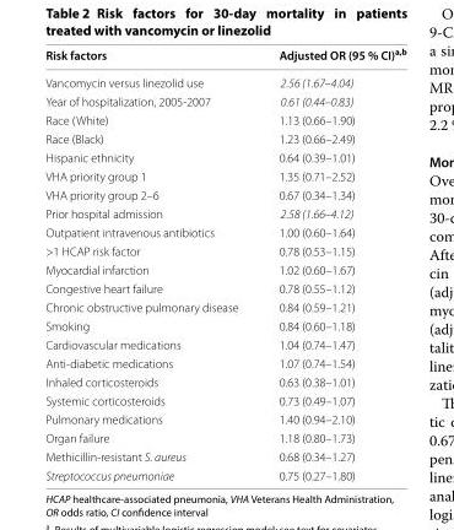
<table><thead><tr><td>Risk factors</td><td>Adjusted OR (95 % CI)<sup>a,b</sup></td></tr></thead><tbody><tr><td>Vancomycin versus linezolid use</td><td>2.56 (1.67–4.04)</td></tr><tr><td>Year of hospitalization, 2005-2007</td><td>0.61 (0.44–0.83)</td></tr><tr><td>Race (White)</td><td>1.13 (0.66–1.90)</td></tr><tr><td>Race (Black)</td><td>1.23 (0.66–2.49)</td></tr><tr><td>Hispanic ethnicity</td><td>0.64 (0.39–1.01)</td></tr><tr><td>VHA priority group 1</td><td>1.35 (0.71–2.52)</td></tr><tr><td>VHA priority group 2–6</td><td>0.67 (0.34–1.34)</td></tr><tr><td>Prior hospital admission</td><td>2.58 (1.66–4.12)</td></tr><tr><td>Outpatient intravenous antibiotics</td><td>1.00 (0.60–1.64)</td></tr><tr><td>&gt;1 HCAP risk factor</td><td>0.78 (0.53–1.15)</td></tr><tr><td>Myocardial infarction</td><td>1.02 (0.60–1.67)</td></tr><tr><td>Congestive heart failure</td><td>0.78 (0.55–1.12)</td></tr><tr><td>Chronic obstructive pulmonary disease</td><td>0.84 (0.59–1.21)</td></tr><tr><td>Smoking</td><td>0.84 (0.60–1.18)</td></tr><tr><td>Cardiovascular medications</td><td>1.04 (0.74–1.47)</td></tr><tr><td>Anti-diabetic medications</td><td>1.07 (0.74–1.54)</td></tr><tr><td>Inhaled corticosteroids</td><td>0.63 (0.38–1.01)</td></tr><tr><td>Systemic corticosteroids</td><td>0.73 (0.49–1.07)</td></tr><tr><td>Pulmonary medications</td><td>1.40 (0.94–2.10)</td></tr><tr><td>Organ failure</td><td>1.18 (0.80–1.73)</td></tr><tr><td>Methicillin-resistant S. aureus</td><td>0.68 (0.34–1.27)</td></tr><tr><td>Streptococcus pneumoniae</td><td>0.75 (0.27–1.80)</td></tr></tbody></table>